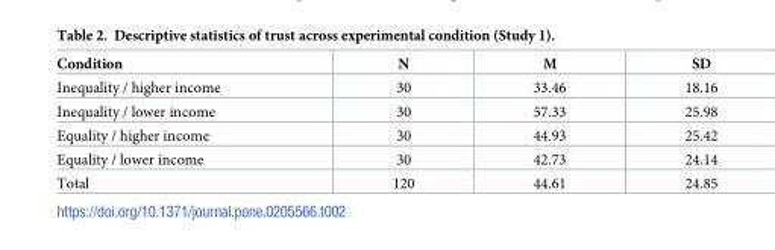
<table><thead><tr><td>Condition</td><td>N</td><td>M</td><td>SD</td></tr></thead><tbody><tr><td>Inequality / higher income</td><td>30</td><td>33.46</td><td>18.16</td></tr><tr><td>Inequality / lower income</td><td>30</td><td>57.33</td><td>25.98</td></tr><tr><td>Equality / higher income</td><td>30</td><td>44.93</td><td>25.42</td></tr><tr><td>Equality / lower income</td><td>30</td><td>42.73</td><td>24.14</td></tr><tr><td>Total</td><td>120</td><td>44.61</td><td>24.85</td></tr></tbody></table>